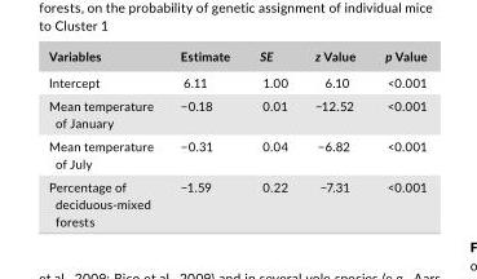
<table><thead><tr><td>Variables</td><td>Estimate</td><td>SE</td><td>z Value</td><td>p Value</td></tr></thead><tbody><tr><td>Intercept</td><td>6.11</td><td>1.00</td><td>6.10</td><td>&lt;0.001</td></tr><tr><td>Mean temperature of January</td><td>−0.18</td><td>0.01</td><td>−12.52</td><td>&lt;0.001</td></tr><tr><td>Mean temperature of July</td><td>−0.31</td><td>0.04</td><td>−6.82</td><td>&lt;0.001</td></tr><tr><td>Percentage of deciduous- mixed forests</td><td>−1.59</td><td>0.22</td><td>−7.31</td><td>&lt;0.001</td></tr></tbody></table>